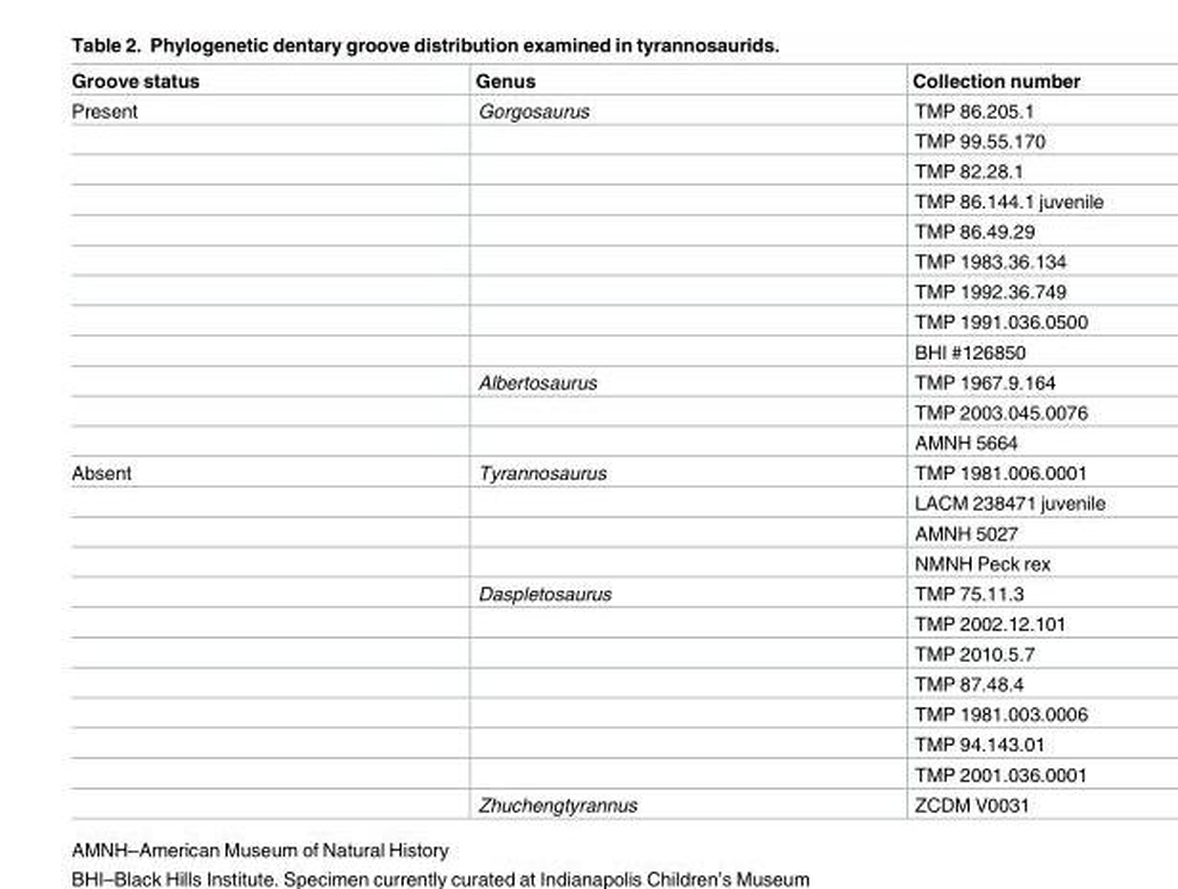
<table><thead><tr><td>Groove status</td><td>Genus</td><td>Collection number</td></tr></thead><tbody><tr><td rowspan="12">Present</td><td>Gorgosaurus</td><td>TMP 86.205.1</td></tr><tr><td></td><td>TMP 99.55.170</td></tr><tr><td></td><td>TMP 82.28.1</td></tr><tr><td></td><td>TMP 86.144.1 juvenile</td></tr><tr><td></td><td>TMP 86.49.29</td></tr><tr><td></td><td>TMP 1983.36.134</td></tr><tr><td></td><td>TMP 1992.36.749</td></tr><tr><td></td><td>TMP 1991.036.0500</td></tr><tr><td></td><td>BHI #126850</td></tr><tr><td>Albertosaurus</td><td>TMP 1967.9.164</td></tr><tr><td></td><td>TMP 2003.045.0076</td></tr><tr><td></td><td>AMNH 5664</td></tr><tr><td rowspan="12">Absent</td><td>Tyrannosaurus</td><td>TMP 1981.006.0001</td></tr><tr><td></td><td>LACM 238471 juvenile</td></tr><tr><td></td><td>AMNH 5027</td></tr><tr><td></td><td>NMNH Peck rex</td></tr><tr><td>Daspletosaurus</td><td>TMP 75.11.3</td></tr><tr><td></td><td>TMP 2002.12.101</td></tr><tr><td></td><td>TMP 2010.5.7</td></tr><tr><td></td><td>TMP 87.48.4</td></tr><tr><td></td><td>TMP 1981.003.0006</td></tr><tr><td></td><td>TMP 94.143.01</td></tr><tr><td></td><td>TMP 2001.036.0001</td></tr><tr><td>Zhuchengtyrannus</td><td>ZCDM V0031</td></tr></tbody></table>